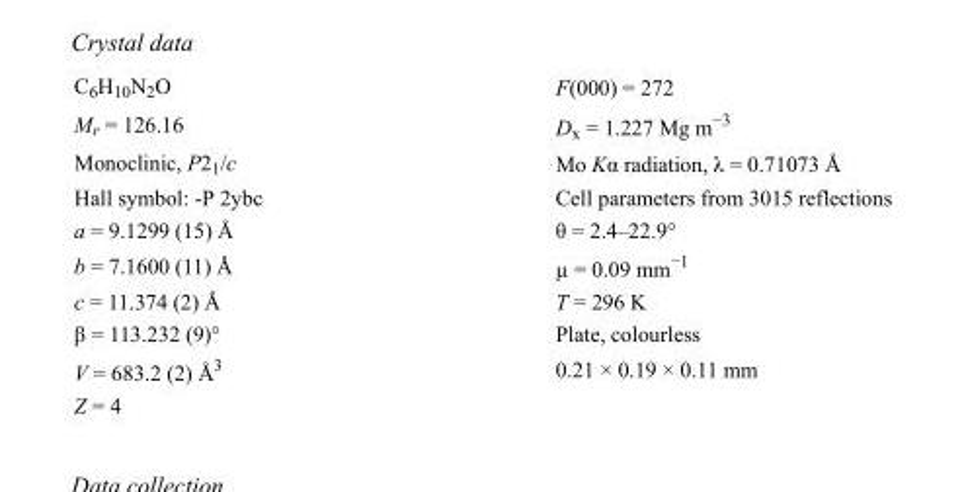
<table><tbody><tr><td>C<sub>6</sub>H<sub>10</sub>N<sub>2</sub>O</td><td>F(000) = 272</td></tr><tr><td>M<sub>r</sub> = 126.16</td><td>D<sub>x</sub> = 1.227 Mg m<sup>−3</sup></td></tr><tr><td>Monoclinic, P2<sub>1</sub>/c</td><td>Mo Kα radiation, λ = 0.71073 Å</td></tr><tr><td>Hall symbol: -P 2ybc</td><td>Cell parameters from 3015 reflections</td></tr><tr><td>a = 9.1299 (15) Å</td><td>θ = 2.4–22.9°</td></tr><tr><td>b = 7.1600 (11) Å</td><td>µ = 0.09 mm<sup>−1</sup></td></tr><tr><td>c = 11.374 (2) Å</td><td>T = 296 K</td></tr><tr><td>β = 113.232 (9)°</td><td>Plate, colourless</td></tr><tr><td>V = 683.2 (2) Å<sup>3</sup></td><td>0.21 × 0.19 × 0.11 mm</td></tr><tr><td>Z = 4</td><td></td></tr></tbody></table>